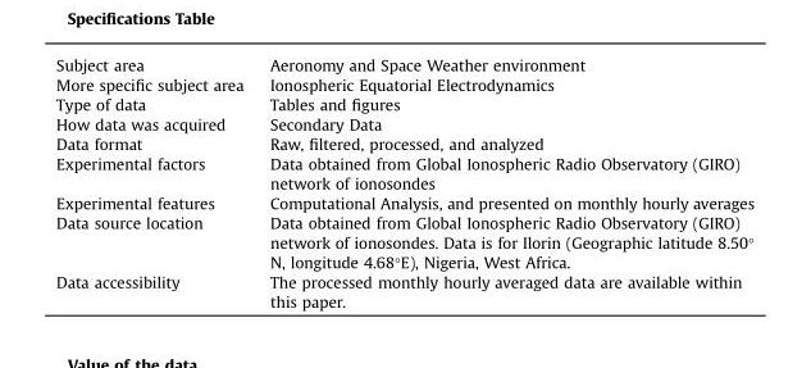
<table><tbody><tr><td>Subject area</td><td>Aeronomy and Space Weather environment</td></tr><tr><td>More specific subject area</td><td>Ionospheric Equatorial Electrodynamics</td></tr><tr><td>Type of data</td><td>Tables and figures</td></tr><tr><td>How data was acquired</td><td>Secondary Data</td></tr><tr><td>Data format</td><td>Raw, filtered, processed, and analyzed</td></tr><tr><td>Experimental factors</td><td>Data obtained from Global Ionospheric Radio Observatory (GIRO) network of ionosondes</td></tr><tr><td>Experimental features</td><td>Computational Analysis, and presented on monthly hourly averages</td></tr><tr><td>Data source location</td><td>Data obtained from Global Ionospheric Radio Observatory (GIRO) network of ionosondes. Data is for Ilorin (Geographic latitude 8.50° N, longitude 4.68°E), Nigeria, West Africa.</td></tr><tr><td>Data accessibility</td><td>The processed monthly hourly averaged data are available within this paper.</td></tr></tbody></table>